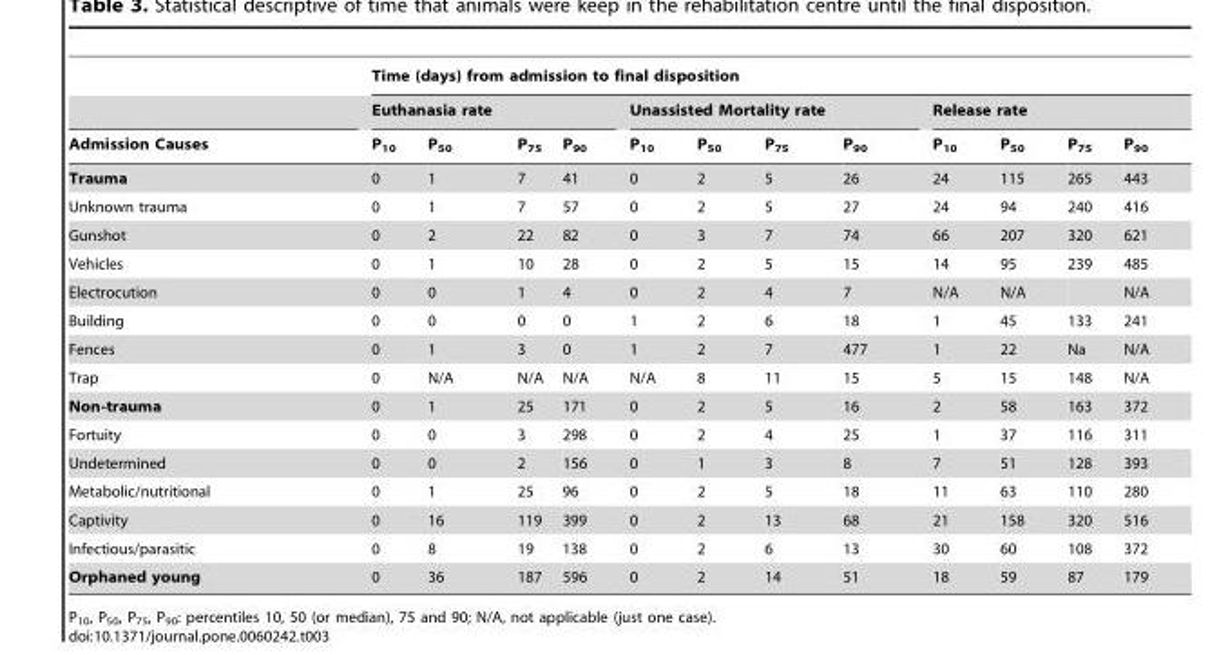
<table><thead><tr><td rowspan="3">Admission Causes</td><td colspan="12">Time (days) from admission to final disposition</td></tr><tr><td colspan="4">Euthanasia rate</td><td colspan="4">Unassisted Mortality rate</td><td colspan="4">Release rate</td></tr><tr><td>P<sub>10</sub></td><td>P<sub>50</sub></td><td>P<sub>75</sub></td><td>P<sub>90</sub></td><td>P<sub>10</sub></td><td>P<sub>50</sub></td><td>P<sub>75</sub></td><td>P<sub>90</sub></td><td>P<sub>10</sub></td><td>P<sub>50</sub></td><td>P<sub>75</sub></td><td>P<sub>90</sub></td></tr></thead><tbody><tr><td>Trauma</td><td>0</td><td>1</td><td>7</td><td>41</td><td>0</td><td>2</td><td>5</td><td>26</td><td>24</td><td>115</td><td>265</td><td>443</td></tr><tr><td>Unknown trauma</td><td>0</td><td>1</td><td>7</td><td>57</td><td>0</td><td>2</td><td>5</td><td>27</td><td>24</td><td>94</td><td>240</td><td>416</td></tr><tr><td>Gunshot</td><td>0</td><td>2</td><td>22</td><td>82</td><td>0</td><td>3</td><td>7</td><td>74</td><td>66</td><td>207</td><td>320</td><td>621</td></tr><tr><td>Vehicles</td><td>0</td><td>1</td><td>10</td><td>28</td><td>0</td><td>2</td><td>5</td><td>15</td><td>14</td><td>95</td><td>239</td><td>485</td></tr><tr><td>Electrocution</td><td>0</td><td>0</td><td>1</td><td>4</td><td>0</td><td>2</td><td>4</td><td>7</td><td>N/A</td><td>N/A</td><td></td><td>N/A</td></tr><tr><td>Building</td><td>0</td><td>0</td><td>0</td><td>0</td><td>1</td><td>2</td><td>6</td><td>18</td><td>1</td><td>45</td><td>133</td><td>241</td></tr><tr><td>Fences</td><td>0</td><td>1</td><td>3</td><td>0</td><td>1</td><td>2</td><td>7</td><td>477</td><td>1</td><td>22</td><td>Na</td><td>N/A</td></tr><tr><td>Trap</td><td>0</td><td>N/A</td><td>N/A</td><td>N/A</td><td>N/A</td><td>8</td><td>11</td><td>15</td><td>5</td><td>15</td><td>148</td><td>N/A</td></tr><tr><td>Non-trauma</td><td>0</td><td>1</td><td>25</td><td>171</td><td>0</td><td>2</td><td>5</td><td>16</td><td>2</td><td>58</td><td>163</td><td>372</td></tr><tr><td>Fortuity</td><td>0</td><td>0</td><td>3</td><td>298</td><td>0</td><td>2</td><td>4</td><td>25</td><td>1</td><td>37</td><td>116</td><td>311</td></tr><tr><td>Undetermined</td><td>0</td><td>0</td><td>2</td><td>156</td><td>0</td><td>1</td><td>3</td><td>8</td><td>7</td><td>51</td><td>128</td><td>393</td></tr><tr><td>Metabolic/nutritional</td><td>0</td><td>1</td><td>25</td><td>96</td><td>0</td><td>2</td><td>5</td><td>18</td><td>11</td><td>63</td><td>110</td><td>280</td></tr><tr><td>Captivity</td><td>0</td><td>16</td><td>119</td><td>399</td><td>0</td><td>2</td><td>13</td><td>68</td><td>21</td><td>158</td><td>320</td><td>516</td></tr><tr><td>Infectious/parasitic</td><td>0</td><td>8</td><td>19</td><td>138</td><td>0</td><td>2</td><td>6</td><td>13</td><td>30</td><td>60</td><td>108</td><td>372</td></tr><tr><td>Orphaned young</td><td>0</td><td>36</td><td>187</td><td>596</td><td>0</td><td>2</td><td>14</td><td>51</td><td>18</td><td>59</td><td>87</td><td>179</td></tr></tbody></table>